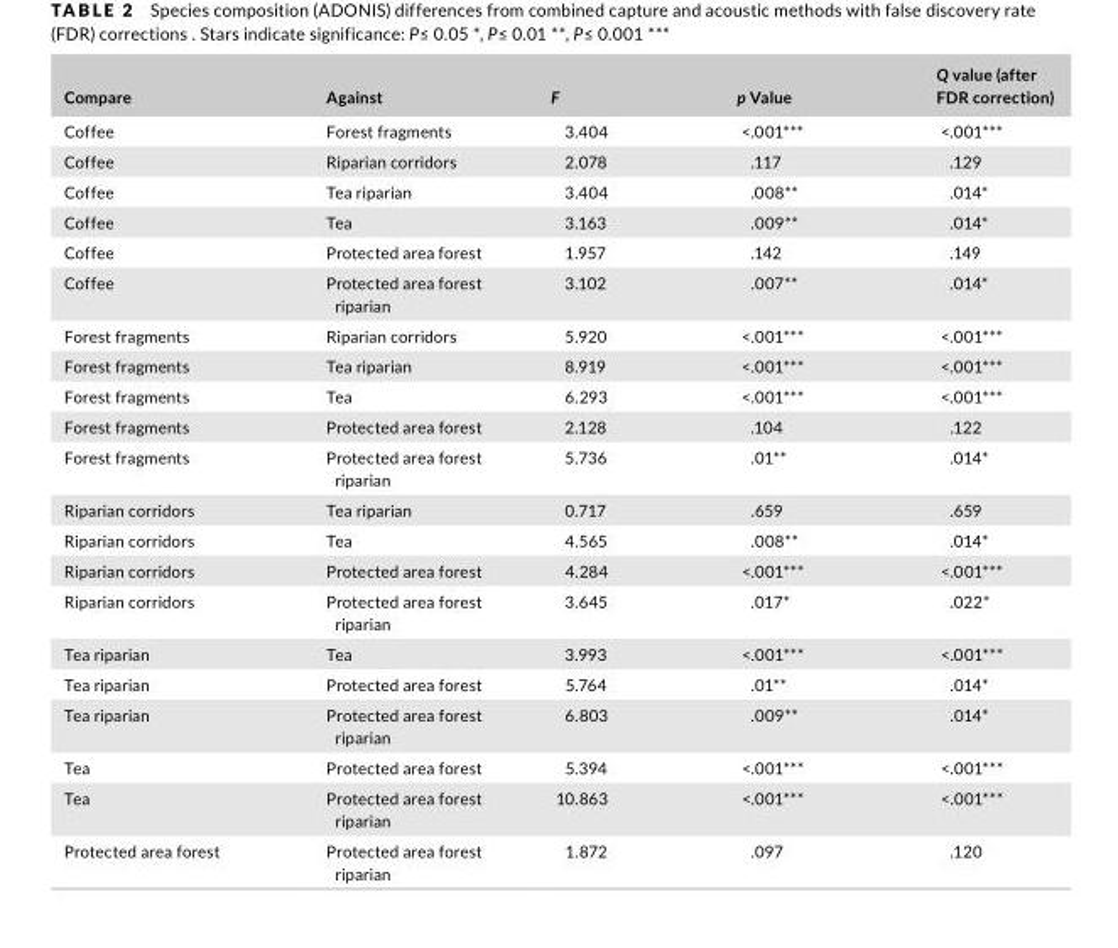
<table><thead><tr><td>Compare</td><td>Against</td><td>F</td><td>p Value</td><td>Q value (after FDR correction)</td></tr></thead><tbody><tr><td>Coffee</td><td>Forest fragments</td><td>3.404</td><td>&lt;.001***</td><td>&lt;.001***</td></tr><tr><td>Coffee</td><td>Riparian corridors</td><td>2.078</td><td>.117</td><td>.129</td></tr><tr><td>Coffee</td><td>Tea riparian</td><td>3.404</td><td>.008**</td><td>.014*</td></tr><tr><td>Coffee</td><td>Tea</td><td>3.163</td><td>.009**</td><td>.014*</td></tr><tr><td>Coffee</td><td>Protected area forest</td><td>1.957</td><td>.142</td><td>.149</td></tr><tr><td>Coffee</td><td>Protected area forest riparian</td><td>3.102</td><td>.007**</td><td>.014*</td></tr><tr><td>Forest fragments</td><td>Riparian corridors</td><td>5.920</td><td>&lt;.001***</td><td>&lt;.001***</td></tr><tr><td>Forest fragments</td><td>Tea riparian</td><td>8.919</td><td>&lt;.001***</td><td>&lt;.001***</td></tr><tr><td>Forest fragments</td><td>Tea</td><td>6.293</td><td>&lt;.001***</td><td>&lt;.001***</td></tr><tr><td>Forest fragments</td><td>Protected area forest</td><td>2.128</td><td>.104</td><td>.122</td></tr><tr><td>Forest fragments</td><td>Protected area forest riparian</td><td>5.736</td><td>.01**</td><td>.014*</td></tr><tr><td>Riparian corridors</td><td>Tea riparian</td><td>0.717</td><td>.659</td><td>.659</td></tr><tr><td>Riparian corridors</td><td>Tea</td><td>4.565</td><td>.008**</td><td>.014*</td></tr><tr><td>Riparian corridors</td><td>Protected area forest</td><td>4.284</td><td>&lt;.001***</td><td>&lt;.001***</td></tr><tr><td>Riparian corridors</td><td>Protected area forest riparian</td><td>3.645</td><td>.017*</td><td>.022*</td></tr><tr><td>Tea riparian</td><td>Tea</td><td>3.993</td><td>&lt;.001***</td><td>&lt;.001***</td></tr><tr><td>Tea riparian</td><td>Protected area forest</td><td>5.764</td><td>.01**</td><td>.014*</td></tr><tr><td>Tea riparian</td><td>Protected area forest riparian</td><td>6.803</td><td>.009**</td><td>.014*</td></tr><tr><td>Tea</td><td>Protected area forest</td><td>5.394</td><td>&lt;.001***</td><td>&lt;.001***</td></tr><tr><td>Tea</td><td>Protected area forest riparian</td><td>10.863</td><td>&lt;.001***</td><td>&lt;.001***</td></tr><tr><td>Protected area forest</td><td>Protected area forest riparian</td><td>1.872</td><td>.097</td><td>.120</td></tr></tbody></table>